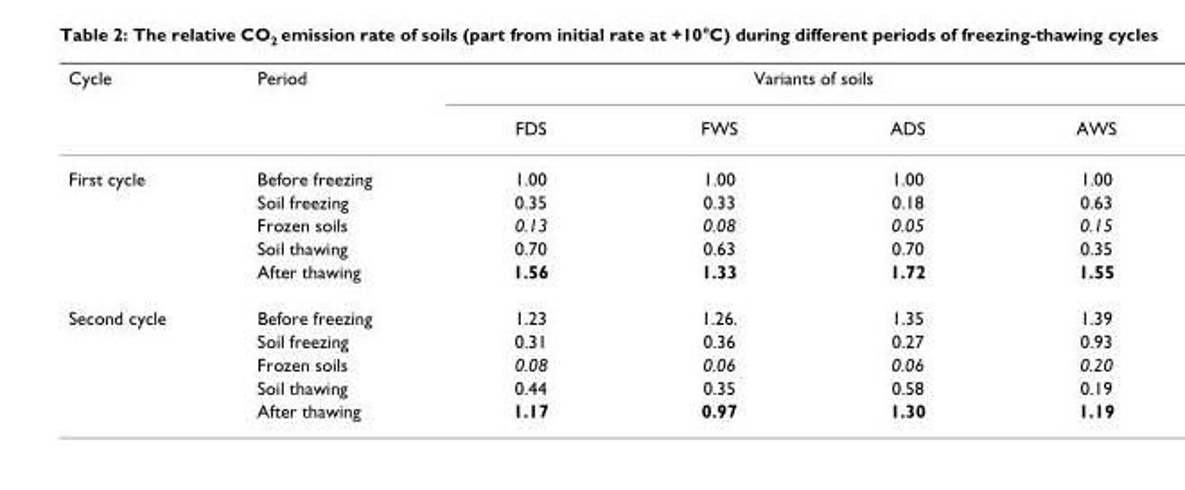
<table><thead><tr><td rowspan="2">Cycle</td><td rowspan="2">Period</td><td colspan="4">Variants of soils</td></tr><tr><td>FDS</td><td>FWS</td><td>ADS</td><td>AWS</td></tr></thead><tbody><tr><td rowspan="5">First cycle</td><td>Before freezing</td><td>1.00</td><td>1.00</td><td>1.00</td><td>1.00</td></tr><tr><td>Soil freezing</td><td>0.35</td><td>0.33</td><td>0.18</td><td>0.63</td></tr><tr><td>Frozen soils</td><td>0.13</td><td>0.08</td><td>0.05</td><td>0.15</td></tr><tr><td>Soil thawing</td><td>0.70</td><td>0.63</td><td>0.70</td><td>0.35</td></tr><tr><td>After thawing</td><td>1.56</td><td>1.33</td><td>1.72</td><td>1.55</td></tr><tr><td rowspan="5">Second cycle</td><td>Before freezing</td><td>1.23</td><td>1.26.</td><td>1.35</td><td>1.39</td></tr><tr><td>Soil freezing</td><td>0.31</td><td>0.36</td><td>0.27</td><td>0.93</td></tr><tr><td>Frozen soils</td><td>0.08</td><td>0.06</td><td>0.06</td><td>0.20</td></tr><tr><td>Soil thawing</td><td>0.44</td><td>0.35</td><td>0.58</td><td>0.19</td></tr><tr><td>After thawing</td><td>1.17</td><td>0.97</td><td>1.30</td><td>1.19</td></tr></tbody></table>